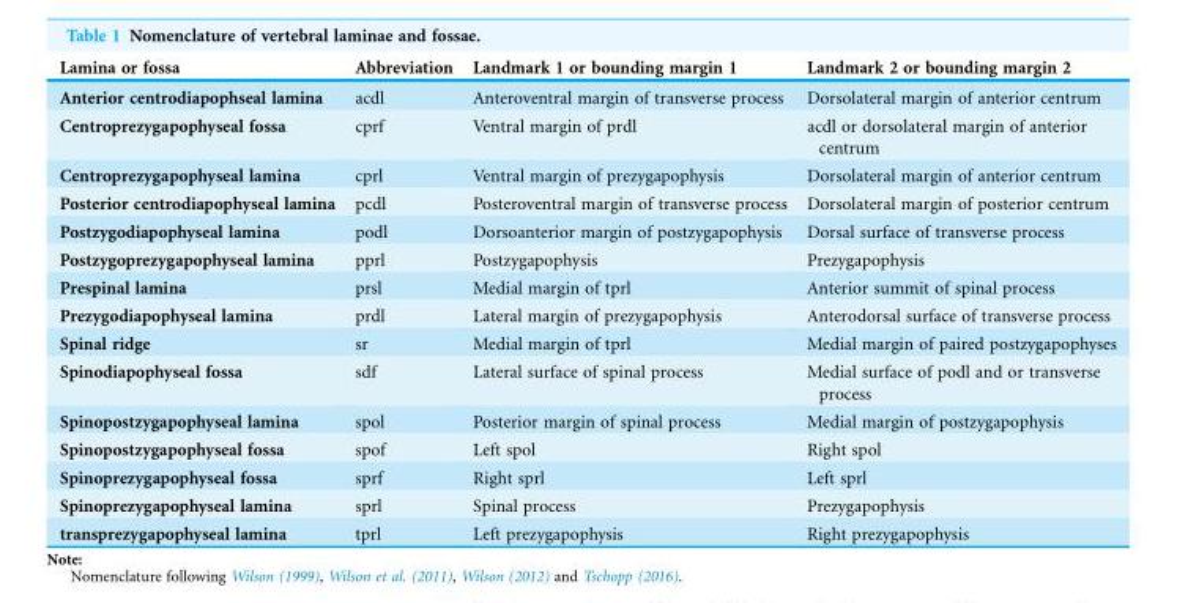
<table><thead><tr><td>Lamina or fossa</td><td>Abbreviation</td><td>Landmark 1 or bounding margin 1</td><td>Landmark 2 or bounding margin 2</td></tr></thead><tbody><tr><td>Anterior centrodiapophseal lamina</td><td>acdl</td><td>Anteroventral margin of transverse process</td><td>Dorsolateral margin of anterior centrum</td></tr><tr><td>Centroprezygapophyseal fossa</td><td>cprf</td><td>Ventral margin of prdl</td><td>acdl or dorsolateral margin of anterior centrum</td></tr><tr><td>Centroprezygapophyseal lamina</td><td>cprl</td><td>Ventral margin of prezygapophysis</td><td>Dorsolateral margin of anterior centrum</td></tr><tr><td>Posterior centrodiapophyseal lamina</td><td>pcdl</td><td>Posteroventral margin of transverse process</td><td>Dorsolateral margin of posterior centrum</td></tr><tr><td>Postzygodiapophyseal lamina</td><td>podl</td><td>Dorsoanterior margin of postzygapophysis</td><td>Dorsal surface of transverse process</td></tr><tr><td>Postzygoprezygapophyseal lamina</td><td>pprl</td><td>Postzygapophysis</td><td>Prezygapophysis</td></tr><tr><td>Prespinal lamina</td><td>prsl</td><td>Medial margin of tprl</td><td>Anterior summit of spinal process</td></tr><tr><td>Prezygodiapophyseal lamina</td><td>prdl</td><td>Lateral margin of prezygapophysis</td><td>Anterodorsal surface of transverse process</td></tr><tr><td>Spinal ridge</td><td>sr</td><td>Medial margin of tprl</td><td>Medial margin of paired postzygapophyses</td></tr><tr><td>Spinodiapophyseal fossa</td><td>sdf</td><td>Lateral surface of spinal process</td><td>Medial surface of podl and or transverse process</td></tr><tr><td>Spinopostzygapophyseal lamina</td><td>spol</td><td>Posterior margin of spinal process</td><td>Medial margin of postzygapophysis</td></tr><tr><td>Spinopostzygapophyseal fossa</td><td>spof</td><td>Left spol</td><td>Right spol</td></tr><tr><td>Spinoprezygapophyseal fossa</td><td>sprf</td><td>Right sprl</td><td>Left sprl</td></tr><tr><td>Spinoprezygapophyseal lamina</td><td>sprl</td><td>Spinal process</td><td>Prezygapophysis</td></tr><tr><td>transprezygapophyseal lamina</td><td>tprl</td><td>Left prezygapophysis</td><td>Right prezygapophysis</td></tr></tbody></table>